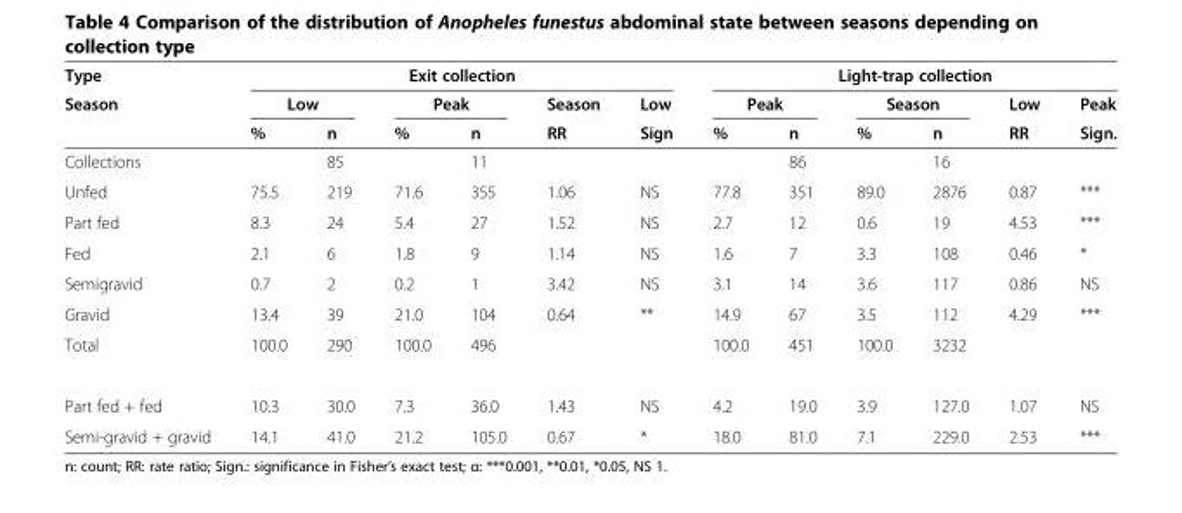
<table><thead><tr><td rowspan="3">Type Season</td><td colspan="6">Exit collection</td><td colspan="6">Light-trap collection</td></tr><tr><td colspan="2">Low</td><td colspan="2">Peak</td><td rowspan="2">Season RR</td><td rowspan="2">Low Sign</td><td colspan="2">Peak</td><td colspan="2">Season</td><td rowspan="2">Low RR</td><td rowspan="2">Peak Sign.</td></tr><tr><td>%</td><td>n</td><td>%</td><td>n</td><td>%</td><td>n</td><td>%</td><td>n</td></tr></thead><tbody><tr><td>Collections</td><td></td><td>85</td><td></td><td>11</td><td></td><td></td><td></td><td>86</td><td></td><td>16</td><td></td><td></td></tr><tr><td>Unfed</td><td>75.5</td><td>219</td><td>71.6</td><td>355</td><td>1.06</td><td>NS</td><td>77.8</td><td>351</td><td>89.0</td><td>2876</td><td>0.87</td><td>***</td></tr><tr><td>Part fed</td><td>8.3</td><td>24</td><td>5.4</td><td>27</td><td>1.52</td><td>NS</td><td>2.7</td><td>12</td><td>0.6</td><td>19</td><td>4.53</td><td>***</td></tr><tr><td>Fed</td><td>2.1</td><td>6</td><td>1.8</td><td>9</td><td>1.14</td><td>NS</td><td>1.6</td><td>7</td><td>3.3</td><td>108</td><td>0.46</td><td>*</td></tr><tr><td>Semigravid</td><td>0.7</td><td>2</td><td>0.2</td><td>1</td><td>3.42</td><td>NS</td><td>3.1</td><td>14</td><td>3.6</td><td>117</td><td>0.86</td><td>NS</td></tr><tr><td>Gravid</td><td>13.4</td><td>39</td><td>21.0</td><td>104</td><td>0.64</td><td>**</td><td>14.9</td><td>67</td><td>3.5</td><td>112</td><td>4.29</td><td>***</td></tr><tr><td>Total</td><td>100.0</td><td>290</td><td>100.0</td><td>496</td><td></td><td></td><td>100.0</td><td>451</td><td>100.0</td><td>3232</td><td></td><td></td></tr><tr><td>Part fed + fed</td><td>10.3</td><td>30.0</td><td>7.3</td><td>36.0</td><td>1.43</td><td>NS</td><td>4.2</td><td>19.0</td><td>3.9</td><td>127.0</td><td>1.07</td><td>NS</td></tr><tr><td>Semi-gravid + gravid</td><td>14.1</td><td>41.0</td><td>21.2</td><td>105.0</td><td>0.67</td><td>*</td><td>18.0</td><td>81.0</td><td>7.1</td><td>229.0</td><td>2.53</td><td>***</td></tr></tbody></table>